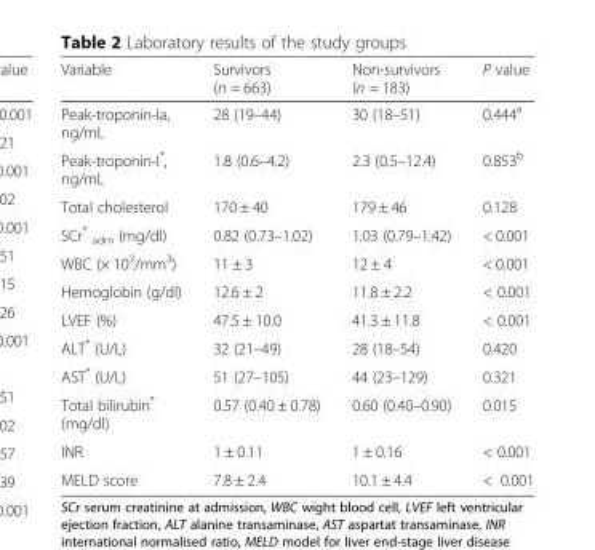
<table><thead><tr><td>Variable</td><td>Survivors (n = 663)</td><td>Non-survivors (n = 183)</td><td>P value</td></tr></thead><tbody><tr><td>Peak-troponin-Ia, ng/mL</td><td>28 (19–44)</td><td>30 (18–51)</td><td>0.444<sup>a</sup></td></tr><tr><td>Peak-troponin-I*, ng/mL</td><td>1.8 (0.6–4.2)</td><td>2.3 (0.5–12.4)</td><td>0.853<sup>b</sup></td></tr><tr><td>Total cholesterol</td><td>170 ± 40</td><td>179 ± 46</td><td>0.128</td></tr><tr><td>SCr* <sub>adm</sub> (mg/dl)</td><td>0.82 (0.73–1.02)</td><td>1.03 (0.79–1.42)</td><td>&lt; 0.001</td></tr><tr><td>WBC (× 10<sup>3</sup>/mm<sup>3</sup>)</td><td>11 ± 3</td><td>12 ± 4</td><td>&lt; 0.001</td></tr><tr><td>Hemoglobin (g/dl)</td><td>12.6 ± 2</td><td>11.8 ± 2.2</td><td>&lt; 0.001</td></tr><tr><td>LVEF (%)</td><td>47.5 ± 10.0</td><td>41.3 ± 11.8</td><td>&lt; 0.001</td></tr><tr><td>ALT* (U/L)</td><td>32 (21–49)</td><td>28 (18–54)</td><td>0.420</td></tr><tr><td>AST* (U/L)</td><td>51 (27–105)</td><td>44 (23–129)</td><td>0.321</td></tr><tr><td>Total bilirubin* (mg/dl)</td><td>0.57 (0.40 ± 0.78)</td><td>0.60 (0.40–0.90)</td><td>0.015</td></tr><tr><td>INR</td><td>1 ± 0.11</td><td>1 ± 0.16</td><td>&lt; 0.001</td></tr><tr><td>MELD score</td><td>7.8 ± 2.4</td><td>10.1 ± 4.4</td><td>&lt; 0.001</td></tr></tbody></table>